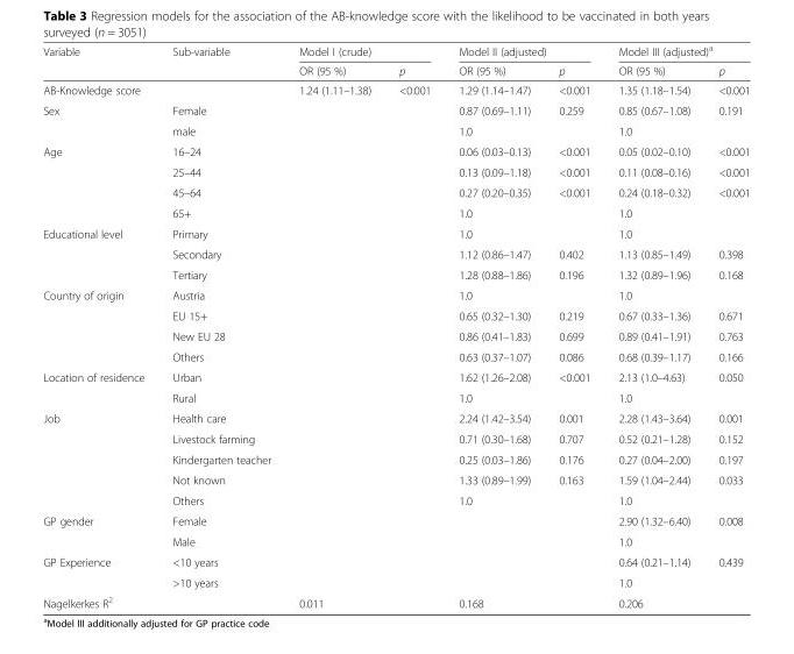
<table><thead><tr><td rowspan="2">Variable</td><td rowspan="2">Sub-variable</td><td colspan="2">Model I (crude)</td><td colspan="2">Model II (adjusted)</td><td colspan="2">Model III (adjusted)<sup>a</sup></td></tr><tr><td>OR (95 %)</td><td>p</td><td>OR (95 %)</td><td>p</td><td>OR (95 %)</td><td>p</td></tr></thead><tbody><tr><td colspan="2">AB-Knowledge score</td><td>1.24 (1.11–1.38)</td><td>&lt;0.001</td><td>1.29 (1.14–1.47)</td><td>&lt;0.001</td><td>1.35 (1.18–1.54)</td><td>&lt;0.001</td></tr><tr><td rowspan="2">Sex</td><td>Female</td><td></td><td></td><td>0.87 (0.69–1.11)</td><td>0.259</td><td>0.85 (0.67–1.08)</td><td>0.191</td></tr><tr><td>male</td><td></td><td></td><td>1.0</td><td></td><td>1.0</td><td></td></tr><tr><td rowspan="4">Age</td><td>16–24</td><td></td><td></td><td>0.06 (0.03–0.13)</td><td>&lt;0.001</td><td>0.05 (0.02–0.10)</td><td>&lt;0.001</td></tr><tr><td>25–44</td><td></td><td></td><td>0.13 (0.09–1.18)</td><td>&lt;0.001</td><td>0.11 (0.08–0.16)</td><td>&lt;0.001</td></tr><tr><td>45–64</td><td></td><td></td><td>0.27 (0.20–0.35)</td><td>&lt;0.001</td><td>0.24 (0.18–0.32)</td><td>&lt;0.001</td></tr><tr><td>65+</td><td></td><td></td><td>1.0</td><td></td><td>1.0</td><td></td></tr><tr><td rowspan="3">Educational level</td><td>Primary</td><td></td><td></td><td>1.0</td><td></td><td>1.0</td><td></td></tr><tr><td>Secondary</td><td></td><td></td><td>1.12 (0.86–1.47)</td><td>0.402</td><td>1.13 (0.85–1.49)</td><td>0.398</td></tr><tr><td>Tertiary</td><td></td><td></td><td>1.28 (0.88–1.86)</td><td>0.196</td><td>1.32 (0.89–1.96)</td><td>0.168</td></tr><tr><td rowspan="4">Country of origin</td><td>Austria</td><td></td><td></td><td>1.0</td><td></td><td>1.0</td><td></td></tr><tr><td>EU 15+</td><td></td><td></td><td>0.65 (0.32–1.30)</td><td>0.219</td><td>0.67 (0.33–1.36)</td><td>0.671</td></tr><tr><td>New EU 28</td><td></td><td></td><td>0.86 (0.41–1.83)</td><td>0.699</td><td>0.89 (0.41–1.91)</td><td>0.763</td></tr><tr><td>Others</td><td></td><td></td><td>0.63 (0.37–1.07)</td><td>0.086</td><td>0.68 (0.39–1.17)</td><td>0.166</td></tr><tr><td rowspan="2">Location of residence</td><td>Urban</td><td></td><td></td><td>1.62 (1.26–2.08)</td><td>&lt;0.001</td><td>2.13 (1.0–4.63)</td><td>0.050</td></tr><tr><td>Rural</td><td></td><td></td><td>1.0</td><td></td><td>1.0</td><td></td></tr><tr><td rowspan="5">Job</td><td>Health care</td><td></td><td></td><td>2.24 (1.42–3.54)</td><td>0.001</td><td>2.28 (1.43–3.64)</td><td>0.001</td></tr><tr><td>Livestock farming</td><td></td><td></td><td>0.71 (0.30–1.68)</td><td>0.707</td><td>0.52 (0.21–1.28)</td><td>0.152</td></tr><tr><td>Kindergarten teacher</td><td></td><td></td><td>0.25 (0.03–1.86)</td><td>0.176</td><td>0.27 (0.04–2.00)</td><td>0.197</td></tr><tr><td>Not known</td><td></td><td></td><td>1.33 (0.89–1.99)</td><td>0.163</td><td>1.59 (1.04–2.44)</td><td>0.033</td></tr><tr><td>Others</td><td></td><td></td><td>1.0</td><td></td><td>1.0</td><td></td></tr><tr><td rowspan="2">GP gender</td><td>Female</td><td></td><td></td><td></td><td></td><td>2.90 (1.32–6.40)</td><td>0.008</td></tr><tr><td>Male</td><td></td><td></td><td></td><td></td><td>1.0</td><td></td></tr><tr><td rowspan="2">GP Experience</td><td>&lt;10 years</td><td></td><td></td><td></td><td></td><td>0.64 (0.21–1.14)</td><td>0.439</td></tr><tr><td>&gt;10 years</td><td></td><td></td><td></td><td></td><td>1.0</td><td></td></tr><tr><td colspan="2">Nagelkerkes R<sup>2</sup></td><td colspan="2">0.011</td><td colspan="2">0.168</td><td colspan="2">0.206</td></tr></tbody></table>